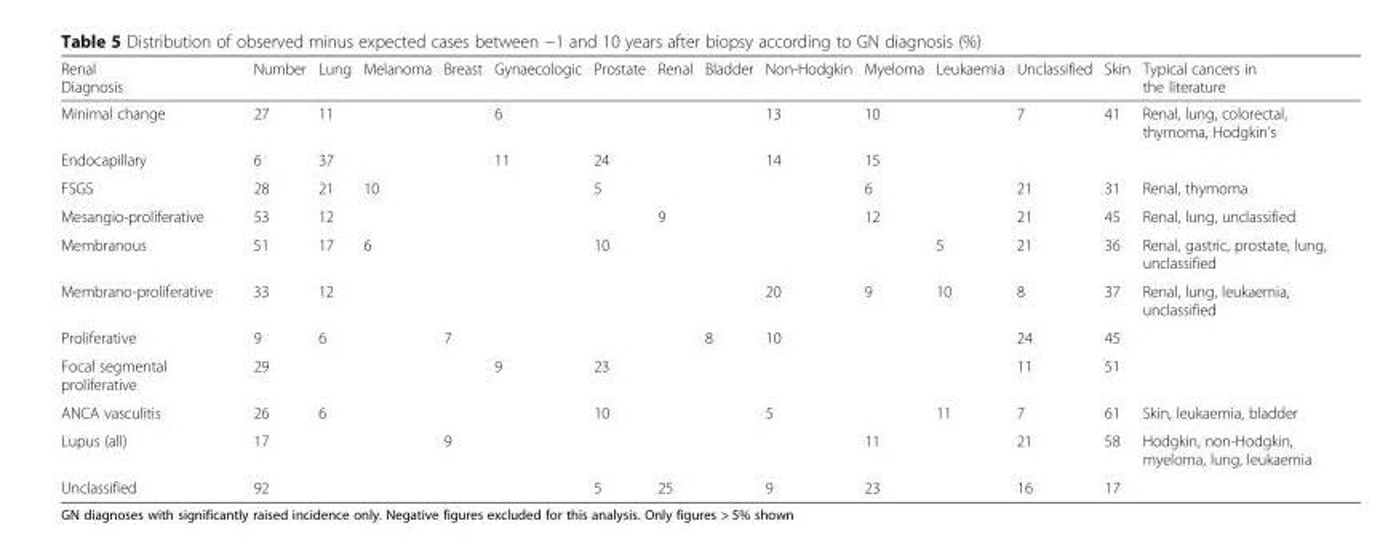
<table><thead><tr><td>Renal Diagnosis</td><td>Number</td><td>Lung</td><td>Melanoma</td><td>Breast</td><td>Gynaecologic</td><td>Prostate</td><td>Renal</td><td>Bladder</td><td>Non-Hodgkin</td><td>Myeloma</td><td>Leukaemia</td><td>Unclassified</td><td>Skin</td><td>Typical cancers in the literature</td></tr></thead><tbody><tr><td>Minimal change</td><td>27</td><td>11</td><td></td><td></td><td>6</td><td></td><td></td><td></td><td>13</td><td>10</td><td></td><td>7</td><td>41</td><td>Renal, lung, colorectal, thymoma, Hodgkin’s</td></tr><tr><td>Endocapillary</td><td>6</td><td>37</td><td></td><td></td><td>11</td><td>24</td><td></td><td></td><td>14</td><td>15</td><td></td><td></td><td></td><td></td></tr><tr><td>FSGS</td><td>28</td><td>21</td><td>10</td><td></td><td></td><td>5</td><td></td><td></td><td></td><td>6</td><td></td><td>21</td><td>31</td><td>Renal, thymoma</td></tr><tr><td>Mesangio-proliferative</td><td>53</td><td>12</td><td></td><td></td><td></td><td></td><td>9</td><td></td><td></td><td>12</td><td></td><td>21</td><td>45</td><td>Renal, lung, unclassified</td></tr><tr><td>Membranous</td><td>51</td><td>17</td><td>6</td><td></td><td></td><td>10</td><td></td><td></td><td></td><td></td><td>5</td><td>21</td><td>36</td><td>Renal, gastric, prostate, lung, unclassified</td></tr><tr><td>Membrano-proliferative</td><td>33</td><td>12</td><td></td><td></td><td></td><td></td><td></td><td></td><td>20</td><td>9</td><td>10</td><td>8</td><td>37</td><td>Renal, lung, leukaemia, unclassified</td></tr><tr><td>Proliferative</td><td>9</td><td>6</td><td></td><td>7</td><td></td><td></td><td></td><td>8</td><td>10</td><td></td><td></td><td>24</td><td>45</td><td></td></tr><tr><td>Focal segmental proliferative</td><td>29</td><td></td><td></td><td></td><td>9</td><td>23</td><td></td><td></td><td></td><td></td><td></td><td>11</td><td>51</td><td></td></tr><tr><td>ANCA vasculitis</td><td>26</td><td>6</td><td></td><td></td><td></td><td>10</td><td></td><td></td><td>5</td><td></td><td>11</td><td>7</td><td>61</td><td>Skin, leukaemia, bladder</td></tr><tr><td>Lupus (all)</td><td>17</td><td></td><td></td><td>9</td><td></td><td></td><td></td><td></td><td></td><td>11</td><td></td><td>21</td><td>58</td><td>Hodgkin, non-Hodgkin, myeloma, lung, leukaemia</td></tr><tr><td>Unclassified</td><td>92</td><td></td><td></td><td></td><td></td><td>5</td><td>25</td><td></td><td>9</td><td>23</td><td></td><td>16</td><td>17</td><td></td></tr></tbody></table>